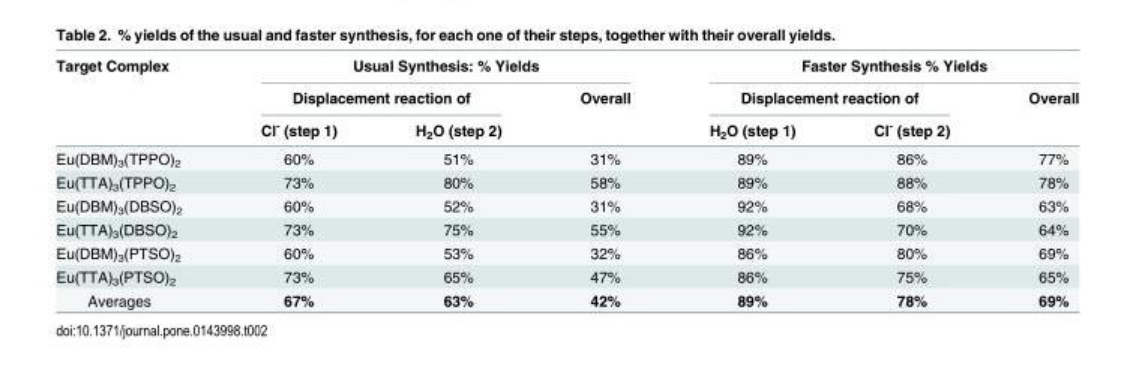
<table><thead><tr><td rowspan="3">Target Complex</td><td colspan="3">Usual Synthesis: % Yields</td><td colspan="3">Faster Synthesis % Yields</td></tr><tr><td colspan="2">Displacement reaction of</td><td rowspan="2">Overall</td><td colspan="2">Displacement reaction of</td><td rowspan="2">Overall</td></tr><tr><td>Cl<sup>-</sup> (step 1)</td><td>H<sub>2</sub>O (step 2)</td><td>H<sub>2</sub>O (step 1)</td><td>Cl<sup>-</sup> (step 2)</td></tr></thead><tbody><tr><td>Eu(DBM)<sub>3</sub>(TPPO)<sub>2</sub></td><td>60%</td><td>51%</td><td>31%</td><td>89%</td><td>86%</td><td>77%</td></tr><tr><td>Eu(TTA)<sub>3</sub>(TPPO)<sub>2</sub></td><td>73%</td><td>80%</td><td>58%</td><td>89%</td><td>88%</td><td>78%</td></tr><tr><td>Eu(DBM)<sub>3</sub>(DBSO)<sub>2</sub></td><td>60%</td><td>52%</td><td>31%</td><td>92%</td><td>68%</td><td>63%</td></tr><tr><td>Eu(TTA)<sub>3</sub>(DBSO)<sub>2</sub></td><td>73%</td><td>75%</td><td>55%</td><td>92%</td><td>70%</td><td>64%</td></tr><tr><td>Eu(DBM)<sub>3</sub>(PTSO)<sub>2</sub></td><td>60%</td><td>53%</td><td>32%</td><td>86%</td><td>80%</td><td>69%</td></tr><tr><td>Eu(TTA)<sub>3</sub>(PTSO)<sub>2</sub></td><td>73%</td><td>65%</td><td>47%</td><td>86%</td><td>75%</td><td>65%</td></tr><tr><td>Averages</td><td>67%</td><td>63%</td><td>42%</td><td>89%</td><td>78%</td><td>69%</td></tr></tbody></table>